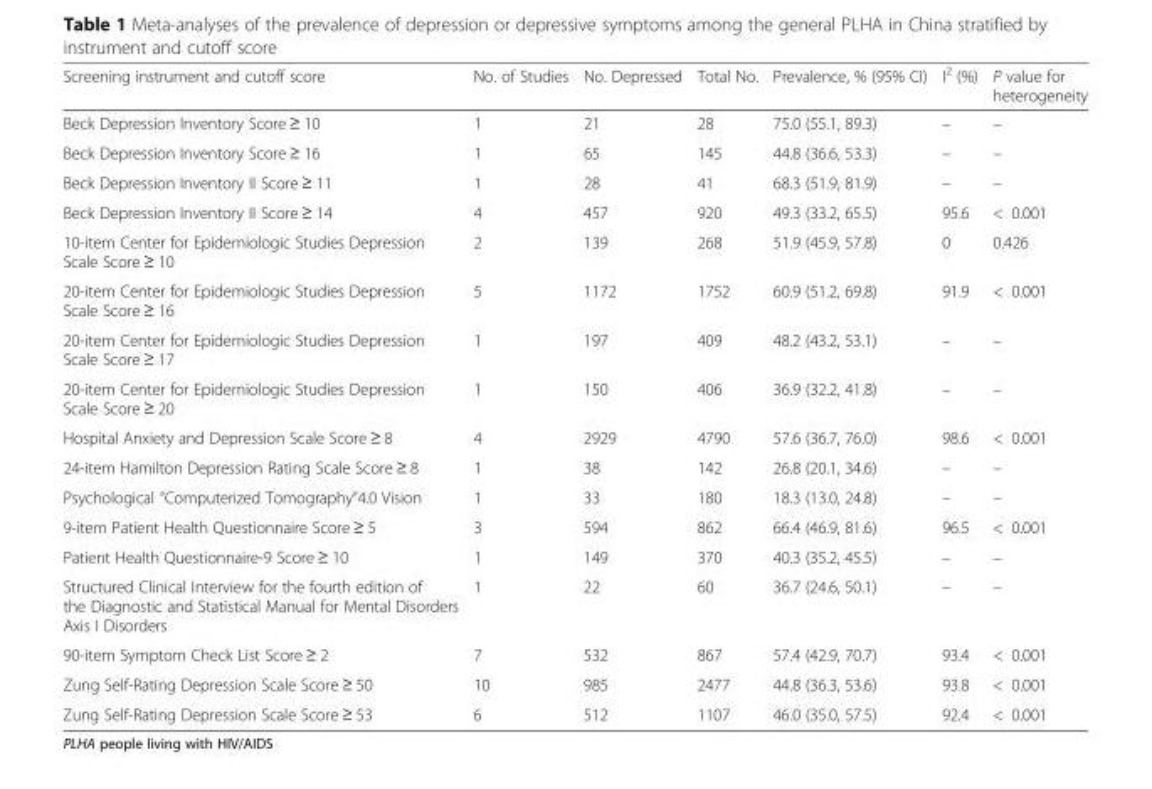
<table><thead><tr><td>Screening instrument and cutoff score</td><td>No. of Studies</td><td>No. Depressed</td><td>Total No.</td><td>Prevalence, % (95% CI)</td><td>I<sup>2</sup> (%)</td><td>P value for heterogeneity</td></tr></thead><tbody><tr><td>Beck Depression Inventory Score ≥ 10</td><td>1</td><td>21</td><td>28</td><td>75.0 (55.1, 89.3)</td><td>–</td><td>–</td></tr><tr><td>Beck Depression Inventory Score ≥ 16</td><td>1</td><td>65</td><td>145</td><td>44.8 (36.6, 53.3)</td><td>–</td><td>–</td></tr><tr><td>Beck Depression Inventory II Score ≥ 11</td><td>1</td><td>28</td><td>41</td><td>68.3 (51.9, 81.9)</td><td>–</td><td>–</td></tr><tr><td>Beck Depression Inventory II Score ≥ 14</td><td>4</td><td>457</td><td>920</td><td>49.3 (33.2, 65.5)</td><td>95.6</td><td>&lt; 0.001</td></tr><tr><td>10-item Center for Epidemiologic Studies Depression Scale Score ≥ 10</td><td>2</td><td>139</td><td>268</td><td>51.9 (45.9, 57.8)</td><td>0</td><td>0.426</td></tr><tr><td>20-item Center for Epidemiologic Studies Depression Scale Score ≥ 16</td><td>5</td><td>1172</td><td>1752</td><td>60.9 (51.2, 69.8)</td><td>91.9</td><td>&lt; 0.001</td></tr><tr><td>20-item Center for Epidemiologic Studies Depression Scale Score ≥ 17</td><td>1</td><td>197</td><td>409</td><td>48.2 (43.2, 53.1)</td><td>–</td><td>–</td></tr><tr><td>20-item Center for Epidemiologic Studies Depression Scale Score ≥ 20</td><td>1</td><td>150</td><td>406</td><td>36.9 (32.2, 41.8)</td><td>–</td><td>–</td></tr><tr><td>Hospital Anxiety and Depression Scale Score ≥ 8</td><td>4</td><td>2929</td><td>4790</td><td>57.6 (36.7, 76.0)</td><td>98.6</td><td>&lt; 0.001</td></tr><tr><td>24-item Hamilton Depression Rating Scale Score ≥ 8</td><td>1</td><td>38</td><td>142</td><td>26.8 (20.1, 34.6)</td><td>–</td><td>–</td></tr><tr><td>Psychological “Computerized Tomography”4.0 Vision</td><td>1</td><td>33</td><td>180</td><td>18.3 (13.0, 24.8)</td><td>–</td><td>–</td></tr><tr><td>9-item Patient Health Questionnaire Score ≥ 5</td><td>3</td><td>594</td><td>862</td><td>66.4 (46.9, 81.6)</td><td>96.5</td><td>&lt; 0.001</td></tr><tr><td>Patient Health Questionnaire-9 Score ≥ 10</td><td>1</td><td>149</td><td>370</td><td>40.3 (35.2, 45.5)</td><td>–</td><td>–</td></tr><tr><td>Structured Clinical Interview for the fourth edition of the Diagnostic and Statistical Manual for Mental Disorders Axis I Disorders</td><td>1</td><td>22</td><td>60</td><td>36.7 (24.6, 50.1)</td><td>–</td><td>–</td></tr><tr><td>90-item Symptom Check List Score ≥ 2</td><td>7</td><td>532</td><td>867</td><td>57.4 (42.9, 70.7)</td><td>93.4</td><td>&lt; 0.001</td></tr><tr><td>Zung Self-Rating Depression Scale Score ≥ 50</td><td>10</td><td>985</td><td>2477</td><td>44.8 (36.3, 53.6)</td><td>93.8</td><td>&lt; 0.001</td></tr><tr><td>Zung Self-Rating Depression Scale Score ≥ 53</td><td>6</td><td>512</td><td>1107</td><td>46.0 (35.0, 57.5)</td><td>92.4</td><td>&lt; 0.001</td></tr></tbody></table>